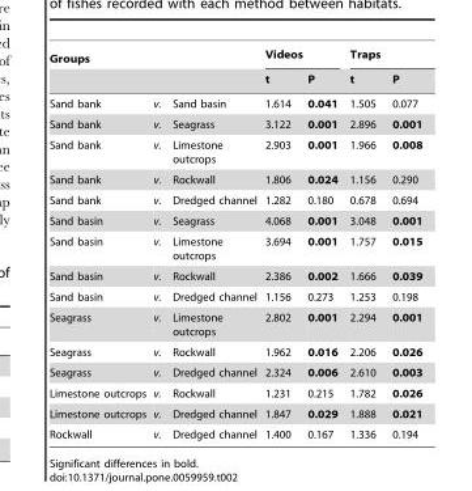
<table><thead><tr><td colspan="3">Groups</td><td colspan="2">Videos</td><td colspan="2">Traps</td></tr><tr><td></td><td></td><td></td><td>t</td><td>P</td><td>t</td><td>P</td></tr></thead><tbody><tr><td>Sand bank</td><td>v.</td><td>Sand basin</td><td>1.614</td><td>0.041</td><td>1.505</td><td>0.077</td></tr><tr><td>Sand bank</td><td>v.</td><td>Seagrass</td><td>3.122</td><td>0.001</td><td>2.896</td><td>0.001</td></tr><tr><td>Sand bank</td><td>v.</td><td>Limestone outcrops</td><td>2.903</td><td>0.001</td><td>1.966</td><td>0.008</td></tr><tr><td>Sand bank</td><td>v.</td><td>Rockwall</td><td>1.806</td><td>0.024</td><td>1.156</td><td>0.290</td></tr><tr><td>Sand bank</td><td>v.</td><td>Dredged channel</td><td>1.282</td><td>0.180</td><td>0.678</td><td>0.694</td></tr><tr><td>Sand basin</td><td>v.</td><td>Seagrass</td><td>4.068</td><td>0.001</td><td>3.048</td><td>0.001</td></tr><tr><td>Sand basin</td><td>v.</td><td>Limestone outcrops</td><td>3.694</td><td>0.001</td><td>1.757</td><td>0.015</td></tr><tr><td>Sand basin</td><td>v.</td><td>Rockwall</td><td>2.386</td><td>0.002</td><td>1.666</td><td>0.039</td></tr><tr><td>Sand basin</td><td>v.</td><td>Dredged channel</td><td>1.156</td><td>0.273</td><td>1.253</td><td>0.198</td></tr><tr><td>Seagrass</td><td>v.</td><td>Limestone outcrops</td><td>2.802</td><td>0.001</td><td>2.294</td><td>0.001</td></tr><tr><td>Seagrass</td><td>v.</td><td>Rockwall</td><td>1.962</td><td>0.016</td><td>2.206</td><td>0.026</td></tr><tr><td>Seagrass</td><td>v.</td><td>Dredged channel</td><td>2.324</td><td>0.006</td><td>2.610</td><td>0.003</td></tr><tr><td>Limestone outcrops</td><td>v.</td><td>Rockwall</td><td>1.231</td><td>0.215</td><td>1.782</td><td>0.026</td></tr><tr><td>Limestone outcrops</td><td>v.</td><td>Dredged channel</td><td>1.847</td><td>0.029</td><td>1.888</td><td>0.021</td></tr><tr><td>Rockwall</td><td>v.</td><td>Dredged channel</td><td>1.400</td><td>0.167</td><td>1.336</td><td>0.194</td></tr></tbody></table>